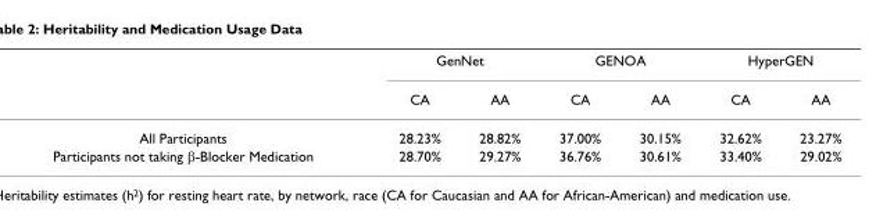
<table><thead><tr><td rowspan="2"></td><td colspan="2">GenNet</td><td colspan="2">GENOA</td><td colspan="2">HyperGEN</td></tr><tr><td>CA</td><td>AA</td><td>CA</td><td>AA</td><td>CA</td><td>AA</td></tr></thead><tbody><tr><td>All Participants</td><td>28.23%</td><td>28.82%</td><td>37.00%</td><td>30.15%</td><td>32.62%</td><td>23.27%</td></tr><tr><td>Participants not taking β-Blocker Medication</td><td>28.70%</td><td>29.27%</td><td>36.76%</td><td>30.61%</td><td>33.40%</td><td>29.02%</td></tr></tbody></table>